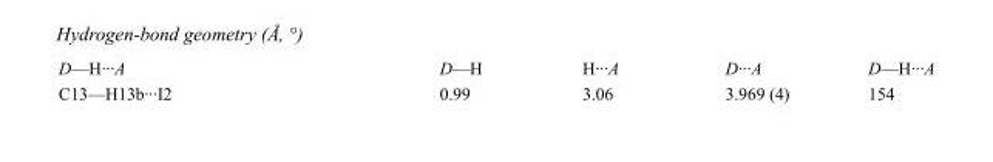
<table><tbody><tr><td>D—H···A</td><td>D—H</td><td>H···A</td><td>D···A</td><td>D—H···A</td></tr><tr><td>C13—H13b···I2</td><td>0.99</td><td>3.06</td><td>3.969 (4)</td><td>154</td></tr></tbody></table>